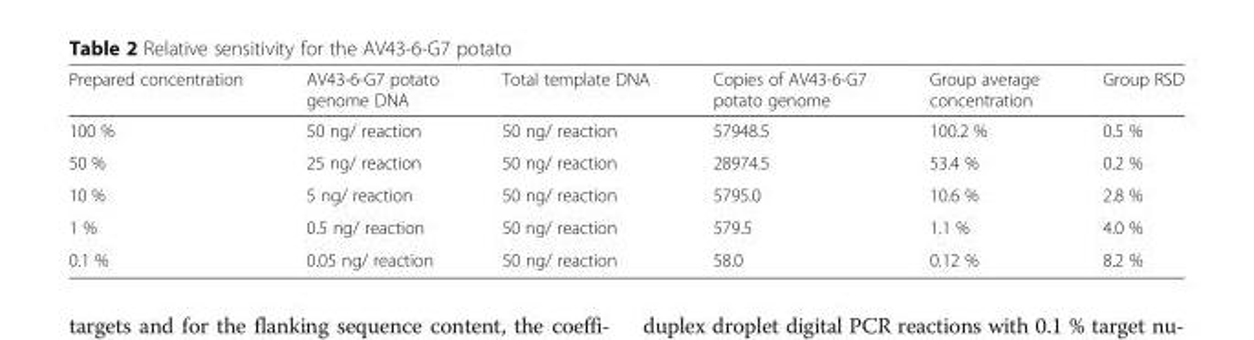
<table><thead><tr><td>Prepared concentration</td><td>AV43-6-G7 potato genome DNA</td><td>Total template DNA</td><td>Copies of AV43-6-G7 potato genome</td><td>Group average concentration</td><td>Group RSD</td></tr></thead><tbody><tr><td>100 %</td><td>50 ng/ reaction</td><td>50 ng/ reaction</td><td>57948.5</td><td>100.2 %</td><td>0.5 %</td></tr><tr><td>50 %</td><td>25 ng/ reaction</td><td>50 ng/ reaction</td><td>28974.5</td><td>53.4 %</td><td>0.2 %</td></tr><tr><td>10 %</td><td>5 ng/ reaction</td><td>50 ng/ reaction</td><td>5795.0</td><td>10.6 %</td><td>2.8 %</td></tr><tr><td>1 %</td><td>0.5 ng/ reaction</td><td>50 ng/ reaction</td><td>579.5</td><td>1.1 %</td><td>4.0 %</td></tr><tr><td>0.1 %</td><td>0.05 ng/ reaction</td><td>50 ng/ reaction</td><td>58.0</td><td>0.12 %</td><td>8.2 %</td></tr></tbody></table>